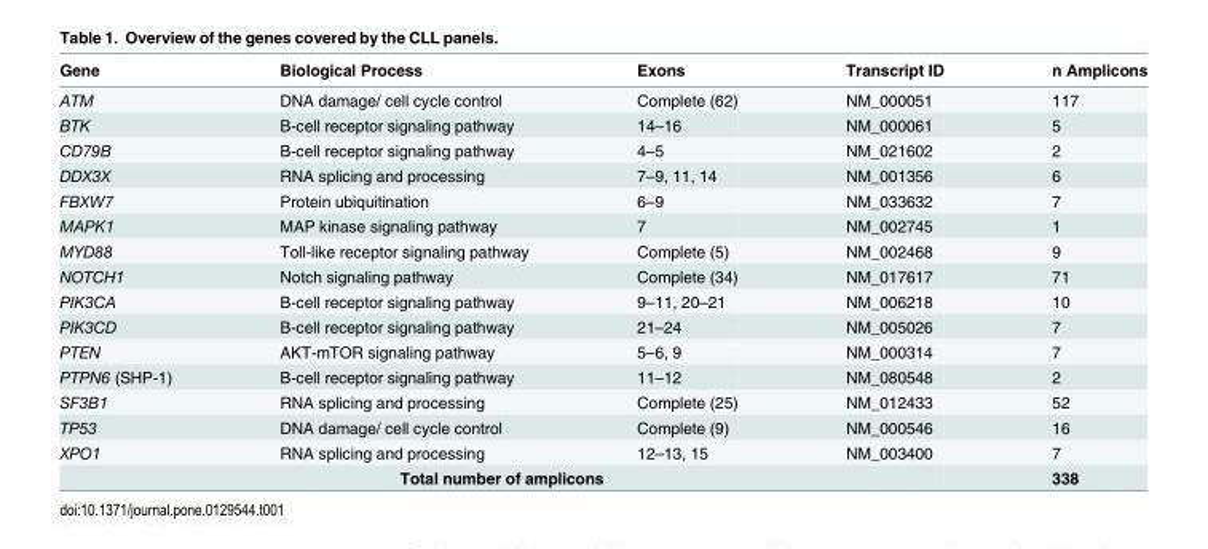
<table><thead><tr><td>Gene</td><td>Biological Process</td><td>Exons</td><td>Transcript ID</td><td>n Amplicons</td></tr></thead><tbody><tr><td>ATM</td><td>DNA damage/ cell cycle control</td><td>Complete (62)</td><td>NM_000051</td><td>117</td></tr><tr><td>BTK</td><td>B-cell receptor signaling pathway</td><td>14–16</td><td>NM_000061</td><td>5</td></tr><tr><td>CD79B</td><td>B-cell receptor signaling pathway</td><td>4–5</td><td>NM_021602</td><td>2</td></tr><tr><td>DDX3X</td><td>RNA splicing and processing</td><td>7–9, 11, 14</td><td>NM_001356</td><td>6</td></tr><tr><td>FBXW7</td><td>Protein ubiquitination</td><td>6–9</td><td>NM_033632</td><td>7</td></tr><tr><td>MAPK1</td><td>MAP kinase signaling pathway</td><td>7</td><td>NM_002745</td><td>1</td></tr><tr><td>MYD88</td><td>Toll-like receptor signaling pathway</td><td>Complete (5)</td><td>NM_002468</td><td>9</td></tr><tr><td>NOTCH1</td><td>Notch signaling pathway</td><td>Complete (34)</td><td>NM_017617</td><td>71</td></tr><tr><td>PIK3CA</td><td>B-cell receptor signaling pathway</td><td>9–11, 20–21</td><td>NM_006218</td><td>10</td></tr><tr><td>PIK3CD</td><td>B-cell receptor signaling pathway</td><td>21–24</td><td>NM_005026</td><td>7</td></tr><tr><td>PTEN</td><td>AKT-mTOR signaling pathway</td><td>5–6, 9</td><td>NM_000314</td><td>7</td></tr><tr><td>PTPN6 (SHP-1)</td><td>B-cell receptor signaling pathway</td><td>11–12</td><td>NM_080548</td><td>2</td></tr><tr><td>SF3B1</td><td>RNA splicing and processing</td><td>Complete (25)</td><td>NM_012433</td><td>52</td></tr><tr><td>TP53</td><td>DNA damage/ cell cycle control</td><td>Complete (9)</td><td>NM_000546</td><td>16</td></tr><tr><td>XPO1</td><td>RNA splicing and processing</td><td>12–13, 15</td><td>NM_003400</td><td>7</td></tr><tr><td colspan="4">Total number of amplicons</td><td>338</td></tr></tbody></table>